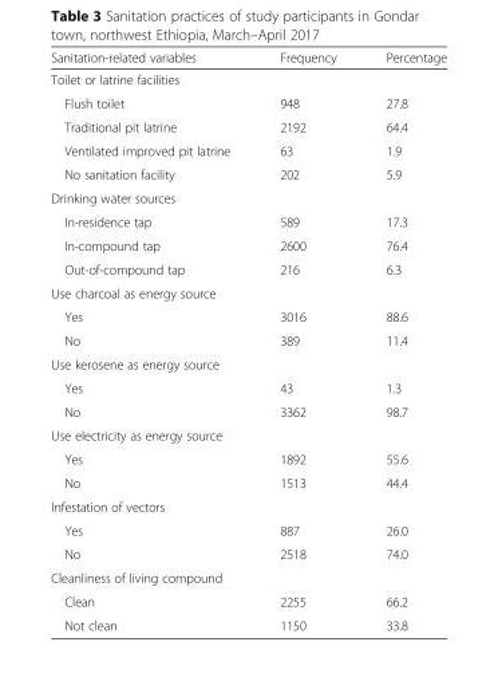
<table><thead><tr><td>Sanitation-related variables</td><td>Frequency</td><td>Percentage</td></tr></thead><tbody><tr><td colspan="3">Toilet or latrine facilities</td></tr><tr><td>Flush toilet</td><td>948</td><td>27.8</td></tr><tr><td>Traditional pit latrine</td><td>2192</td><td>64.4</td></tr><tr><td>Ventilated improved pit latrine</td><td>63</td><td>1.9</td></tr><tr><td>No sanitation facility</td><td>202</td><td>5.9</td></tr><tr><td colspan="3">Drinking water sources</td></tr><tr><td>In-residence tap</td><td>589</td><td>17.3</td></tr><tr><td>In-compound tap</td><td>2600</td><td>76.4</td></tr><tr><td>Out-of-compound tap</td><td>216</td><td>6.3</td></tr><tr><td colspan="3">Use charcoal as energy source</td></tr><tr><td>Yes</td><td>3016</td><td>88.6</td></tr><tr><td>No</td><td>389</td><td>11.4</td></tr><tr><td colspan="3">Use kerosene as energy source</td></tr><tr><td>Yes</td><td>43</td><td>1.3</td></tr><tr><td>No</td><td>3362</td><td>98.7</td></tr><tr><td colspan="3">Use electricity as energy source</td></tr><tr><td>Yes</td><td>1892</td><td>55.6</td></tr><tr><td>No</td><td>1513</td><td>44.4</td></tr><tr><td colspan="3">Infestation of vectors</td></tr><tr><td>Yes</td><td>887</td><td>26.0</td></tr><tr><td>No</td><td>2518</td><td>74.0</td></tr><tr><td colspan="3">Cleanliness of living compound</td></tr><tr><td>Clean</td><td>2255</td><td>66.2</td></tr><tr><td>Not clean</td><td>1150</td><td>33.8</td></tr></tbody></table>